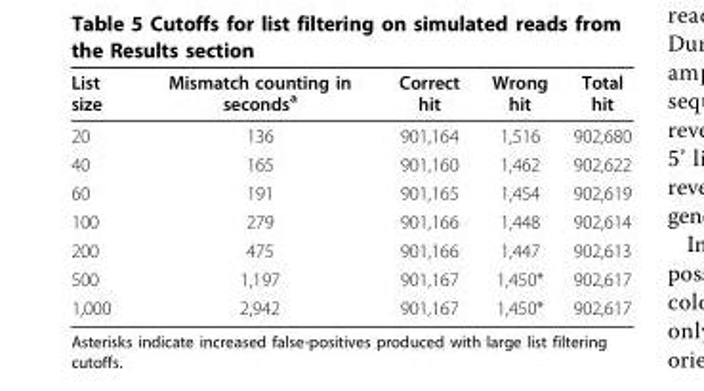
<table><thead><tr><td>List size</td><td>Mismatch counting in seconds<sup>a</sup></td><td>Correct hit</td><td>Wrong hit</td><td>Total hit</td></tr></thead><tbody><tr><td>20</td><td>136</td><td>901,164</td><td>1,516</td><td>902,680</td></tr><tr><td>40</td><td>165</td><td>901,160</td><td>1,462</td><td>902,622</td></tr><tr><td>60</td><td>191</td><td>901,165</td><td>1,454</td><td>902,619</td></tr><tr><td>100</td><td>279</td><td>901,166</td><td>1,448</td><td>902,614</td></tr><tr><td>200</td><td>475</td><td>901,166</td><td>1,447</td><td>902,613</td></tr><tr><td>500</td><td>1,197</td><td>901,167</td><td>1,450*</td><td>902,617</td></tr><tr><td>1,000</td><td>2,942</td><td>901,167</td><td>1,450*</td><td>902,617</td></tr></tbody></table>